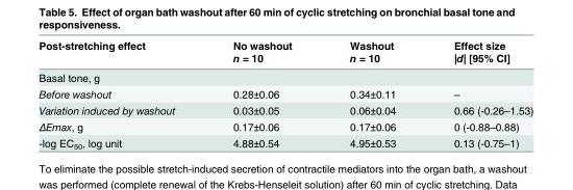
<table><thead><tr><td rowspan="2">Post-stretching effect</td><td rowspan="2">No washout n = 10</td><td rowspan="2">Washout n = 10</td><td rowspan="2">Effect size |d| [95% CI]</td></tr><tr></tr></thead><tbody><tr><td colspan="4">Basal tone, g</td></tr><tr><td>Before washout</td><td>0.28±0.06</td><td>0.34±0.11</td><td>–</td></tr><tr><td>Variation induced by washout</td><td>0.03±0.05</td><td>0.06±0.04</td><td>0.66 (-0.26–1.53)</td></tr><tr><td>ΔEmax, g</td><td>0.17±0.06</td><td>0.17±0.06</td><td>0 (-0.88–0.88)</td></tr><tr><td>-log EC<sub>50</sub>, log unit</td><td>4.88±0.54</td><td>4.95±0.53</td><td>0.13 (-0.75–1)</td></tr></tbody></table>